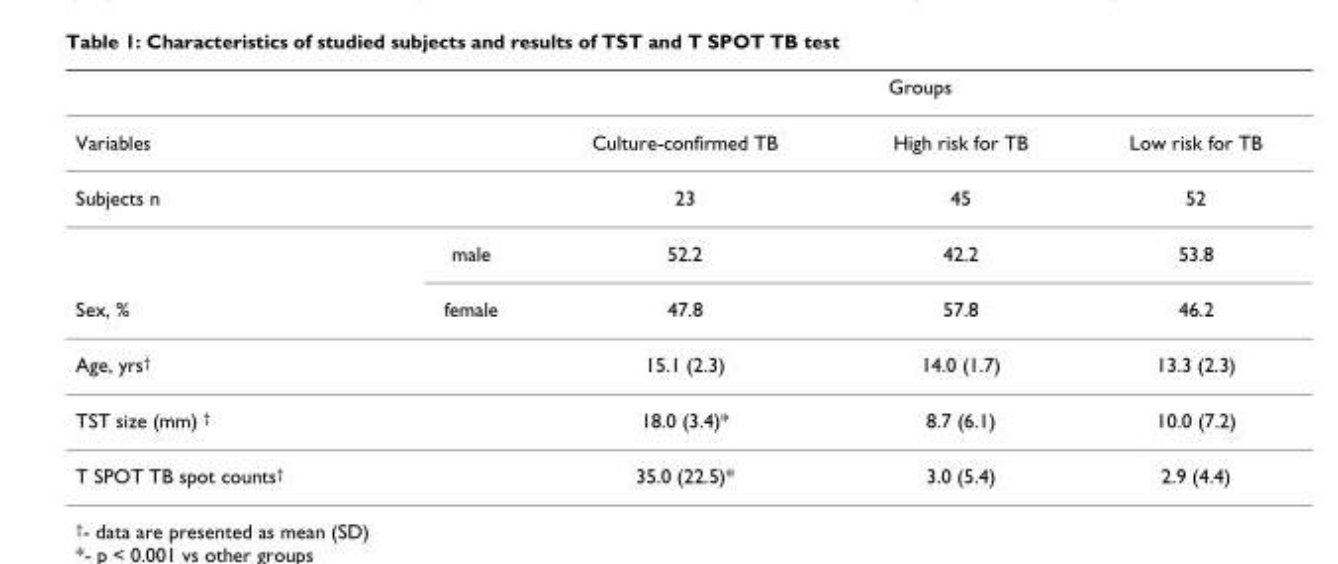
<table><thead><tr><td rowspan="2">Variables</td><td rowspan="2"></td><td colspan="3">Groups</td></tr><tr><td>Culture-confirmed TB</td><td>High risk for TB</td><td>Low risk for TB</td></tr></thead><tbody><tr><td rowspan="2">Subjects n</td><td></td><td>23</td><td>45</td><td>52</td></tr><tr><td>male</td><td>52.2</td><td>42.2</td><td>53.8</td></tr><tr><td>Sex, %</td><td>female</td><td>47.8</td><td>57.8</td><td>46.2</td></tr><tr><td>Age, yrs<sup>†</sup></td><td></td><td>15.1 (2.3)</td><td>14.0 (1.7)</td><td>13.3 (2.3)</td></tr><tr><td>TST size (mm) <sup>†</sup></td><td></td><td>18.0 (3.4)*</td><td>8.7 (6.1)</td><td>10.0 (7.2)</td></tr><tr><td>T SPOT TB spot counts<sup>†</sup></td><td></td><td>35.0 (22.5)*</td><td>3.0 (5.4)</td><td>2.9 (4.4)</td></tr></tbody></table>